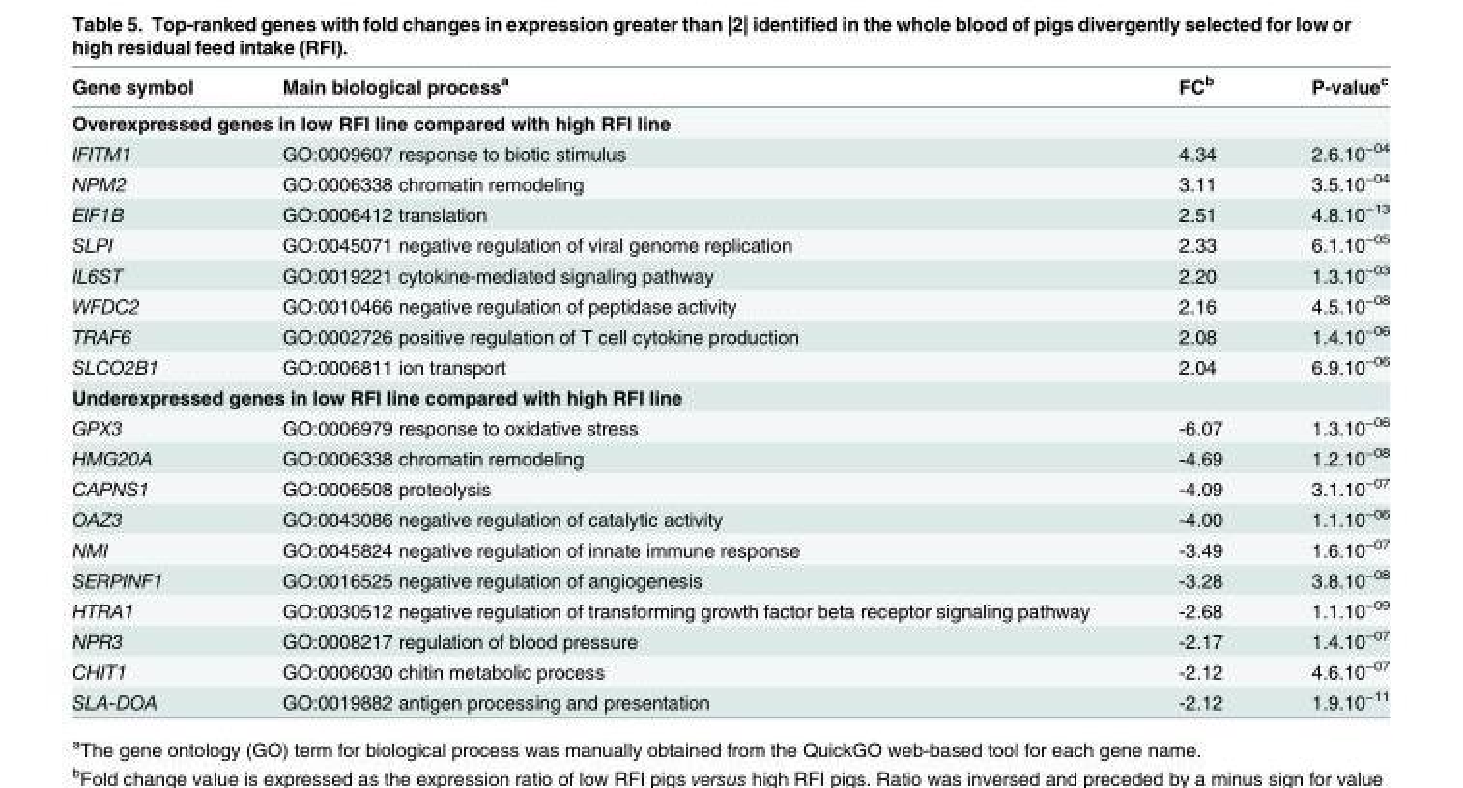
<table><thead><tr><td>Gene symbol</td><td>Main biological process<sup>a</sup></td><td>FC<sup>b</sup></td><td>P-value<sup>c</sup></td></tr></thead><tbody><tr><td colspan="4">Overexpressed genes in low RFI line compared with high RFI line</td></tr><tr><td>IFITM1</td><td>GO:0009607 response to biotic stimulus</td><td>4.34</td><td>2.6.10<sup>−04</sup></td></tr><tr><td>NPM2</td><td>GO:0006338 chromatin remodeling</td><td>3.11</td><td>3.5.10<sup>−04</sup></td></tr><tr><td>EIF1B</td><td>GO:0006412 translation</td><td>2.51</td><td>4.8.10<sup>−13</sup></td></tr><tr><td>SLPI</td><td>GO:0045071 negative regulation of viral genome replication</td><td>2.33</td><td>6.1.10<sup>−05</sup></td></tr><tr><td>IL6ST</td><td>GO:0019221 cytokine-mediated signaling pathway</td><td>2.20</td><td>1.3.10<sup>−03</sup></td></tr><tr><td>WFDC2</td><td>GO:0010466 negative regulation of peptidase activity</td><td>2.16</td><td>4.5.10<sup>−08</sup></td></tr><tr><td>TRAF6</td><td>GO:0002726 positive regulation of T cell cytokine production</td><td>2.08</td><td>1.4.10<sup>−06</sup></td></tr><tr><td>SLCO2B1</td><td>GO:0006811 ion transport</td><td>2.04</td><td>6.9.10<sup>−06</sup></td></tr><tr><td colspan="4">Underexpressed genes in low RFI line compared with high RFI line</td></tr><tr><td>GPX3</td><td>GO:0006979 response to oxidative stress</td><td>-6.07</td><td>1.3.10<sup>−06</sup></td></tr><tr><td>HMG20A</td><td>GO:0006338 chromatin remodeling</td><td>-4.69</td><td>1.2.10<sup>−08</sup></td></tr><tr><td>CAPNS1</td><td>GO:0006508 proteolysis</td><td>-4.09</td><td>3.1.10<sup>−07</sup></td></tr><tr><td>OAZ3</td><td>GO:0043086 negative regulation of catalytic activity</td><td>-4.00</td><td>1.1.10<sup>−06</sup></td></tr><tr><td>NMI</td><td>GO:0045824 negative regulation of innate immune response</td><td>-3.49</td><td>1.6.10<sup>−07</sup></td></tr><tr><td>SERPINF1</td><td>GO:0016525 negative regulation of angiogenesis</td><td>-3.28</td><td>3.8.10<sup>−08</sup></td></tr><tr><td>HTRA1</td><td>GO:0030512 negative regulation of transforming growth factor beta receptor signaling pathway</td><td>-2.68</td><td>1.1.10<sup>−09</sup></td></tr><tr><td>NPR3</td><td>GO:0008217 regulation of blood pressure</td><td>-2.17</td><td>1.4.10<sup>−07</sup></td></tr><tr><td>CHIT1</td><td>GO:0006030 chitin metabolic process</td><td>-2.12</td><td>4.6.10<sup>−07</sup></td></tr><tr><td>SLA-DOA</td><td>GO:0019882 antigen processing and presentation</td><td>-2.12</td><td>1.9.10<sup>−11</sup></td></tr></tbody></table>